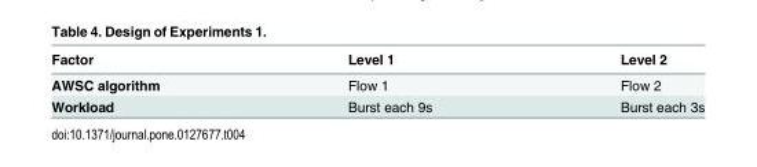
<table><thead><tr><td>Factor</td><td>Level 1</td><td>Level 2</td></tr></thead><tbody><tr><td>AWSC algorithm</td><td>Flow 1</td><td>Flow 2</td></tr><tr><td>Workload</td><td>Burst each 9s</td><td>Burst each 3s</td></tr></tbody></table>